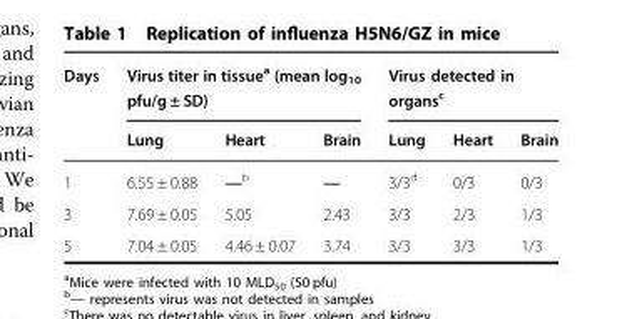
<table><thead><tr><td rowspan="2">Days</td><td colspan="3">Virus titer in tissue<sup>a</sup> (mean log<sub>10</sub> pfu/g ± SD)</td><td colspan="3">Virus detected in organs<sup>c</sup></td></tr><tr><td>Lung</td><td>Heart</td><td>Brain</td><td>Lung</td><td>Heart</td><td>Brain</td></tr></thead><tbody><tr><td>1</td><td>6.55 ± 0.88</td><td>—<sup>b</sup></td><td>—</td><td>3/3<sup>d</sup></td><td>0/3</td><td>0/3</td></tr><tr><td>3</td><td>7.69 ± 0.05</td><td>5.05</td><td>2.43</td><td>3/3</td><td>2/3</td><td>1/3</td></tr><tr><td>5</td><td>7.04 ± 0.05</td><td>4.46 ± 0.07</td><td>3.74</td><td>3/3</td><td>3/3</td><td>1/3</td></tr></tbody></table>